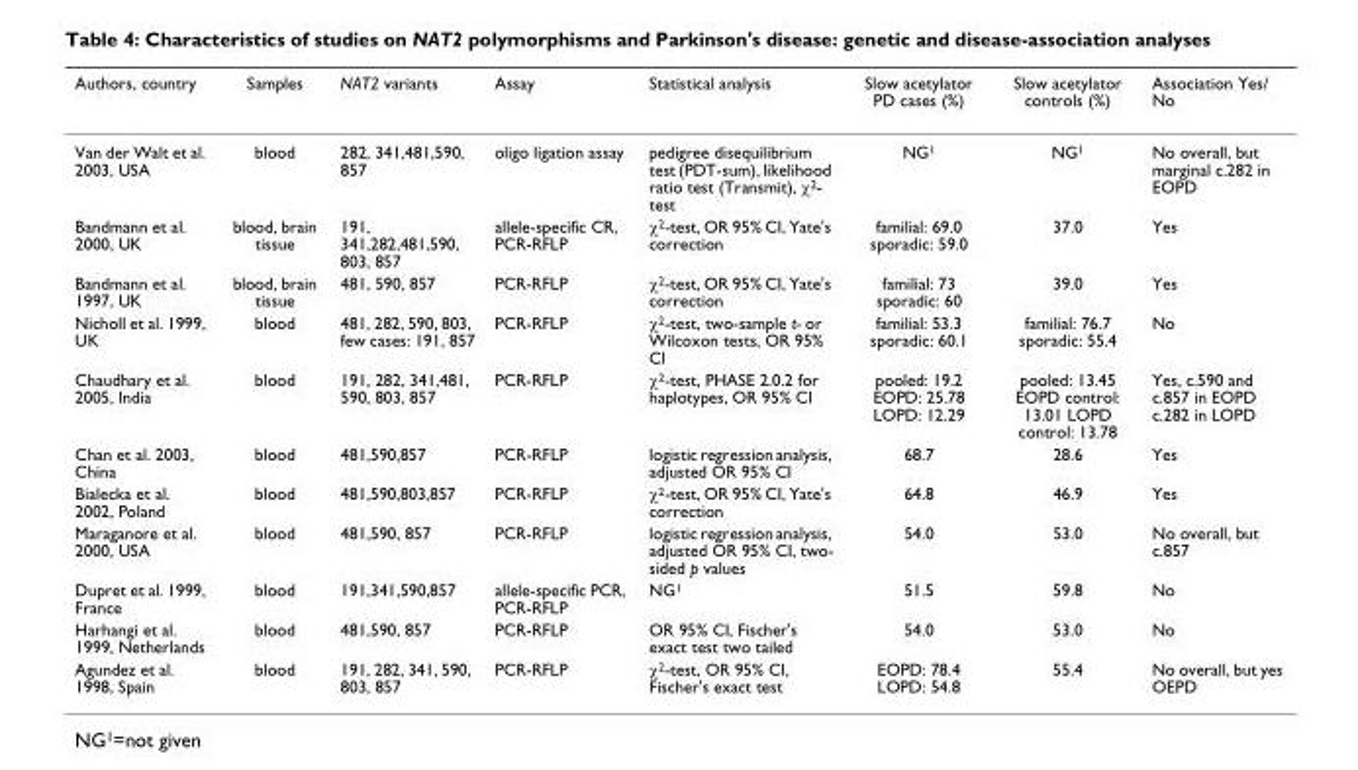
<table><thead><tr><td>Authors, country</td><td>Samples</td><td>NAT2 variants</td><td>Assay</td><td>Statistical analysis</td><td>Slow acetylator PD cases (%)</td><td>Slow acetylator controls (%)</td><td>Association Yes/ No</td></tr></thead><tbody><tr><td>Van der Walt et al. 2003, USA</td><td>blood</td><td>282, 341,481,590, 857</td><td>oligo ligation assay</td><td>pedigree disequilibrium test (PDT-sum), likelihood ratio test (Transmit), χ<sup>2</sup>- test</td><td>NG<sup>1</sup></td><td>NG<sup>1</sup></td><td>No overall, but marginal c.282 in EOPD</td></tr><tr><td>Bandmann et al. 2000, UK</td><td>blood, brain tissue</td><td>191, 341,282,481,590, 803, 857</td><td>allele-specific CR, PCR-RFLP</td><td>χ<sup>2</sup>-test, OR 95% CI, Yate&#x27;s correction</td><td>familial: 69.0 sporadic: 59.0</td><td>37.0</td><td>Yes</td></tr><tr><td>Bandmann et al. 1997, UK</td><td>blood, brain tissue</td><td>481, 590, 857</td><td>PCR-RFLP</td><td>χ<sup>2</sup>-test, OR 95% CI, Yate&#x27;s correction</td><td>familial: 73 sporadic: 60</td><td>39.0</td><td>Yes</td></tr><tr><td>Nicholl et al. 1999, UK</td><td>blood</td><td>481, 282, 590, 803, few cases: 191, 857</td><td>PCR-RFLP</td><td>χ<sup>2</sup>-test, two-sample t- or Wilcoxon tests, OR 95% CI</td><td>familial: 53.3 sporadic: 60.1</td><td>familial: 76.7 sporadic: 55.4</td><td>No</td></tr><tr><td>Chaudhary et al. 2005, India</td><td>blood</td><td>191, 282, 341,481, 590, 803, 857</td><td>PCR-RFLP</td><td>χ<sup>2</sup>-test, PHASE 2.0.2 for haplotypes, OR 95% CI</td><td>pooled: 19.2 EOPD: 25.78 LOPD: 12.29</td><td>pooled: 13.45 EOPD control: 13.01 LOPD control: 13.78</td><td>Yes, c.590 and c.857 in EOPD c.282 in LOPD</td></tr><tr><td>Chan et al. 2003, China</td><td>blood</td><td>481,590,857</td><td>PCR-RFLP</td><td>logistic regression analysis, adjusted OR 95% CI</td><td>68.7</td><td>28.6</td><td>Yes</td></tr><tr><td>Bialecka et al. 2002, Poland</td><td>blood</td><td>481,590,803,857</td><td>PCR-RFLP</td><td>χ<sup>2</sup>-test, OR 95% CI, Yate&#x27;s correction</td><td>64.8</td><td>46.9</td><td>Yes</td></tr><tr><td>Maraganore et al. 2000, USA</td><td>blood</td><td>481,590, 857</td><td>PCR-RFLP</td><td>logistic regression analysis, adjusted OR 95% CI, two- sided p values</td><td>54.0</td><td>53.0</td><td>No overall, but c.857</td></tr><tr><td>Dupret et al. 1999, France</td><td>blood</td><td>191,341,590,857</td><td>allele-specific PCR, PCR-RFLP</td><td>NG<sup>1</sup></td><td>51.5</td><td>59.8</td><td>No</td></tr><tr><td>Harhangi et al. 1999, Netherlands</td><td>blood</td><td>481,590, 857</td><td>PCR-RFLP</td><td>OR 95% CI, Fischer&#x27;s exact test two tailed</td><td>54.0</td><td>53.0</td><td>No</td></tr><tr><td>Agundez et al. 1998, Spain</td><td>blood</td><td>191, 282, 341, 590, 803, 857</td><td>PCR-RFLP</td><td>χ<sup>2</sup>-test, OR 95% CI, Fischer&#x27;s exact test</td><td>EOPD: 78.4 LOPD: 54.8</td><td>55.4</td><td>No overall, but yes OEPD</td></tr></tbody></table>